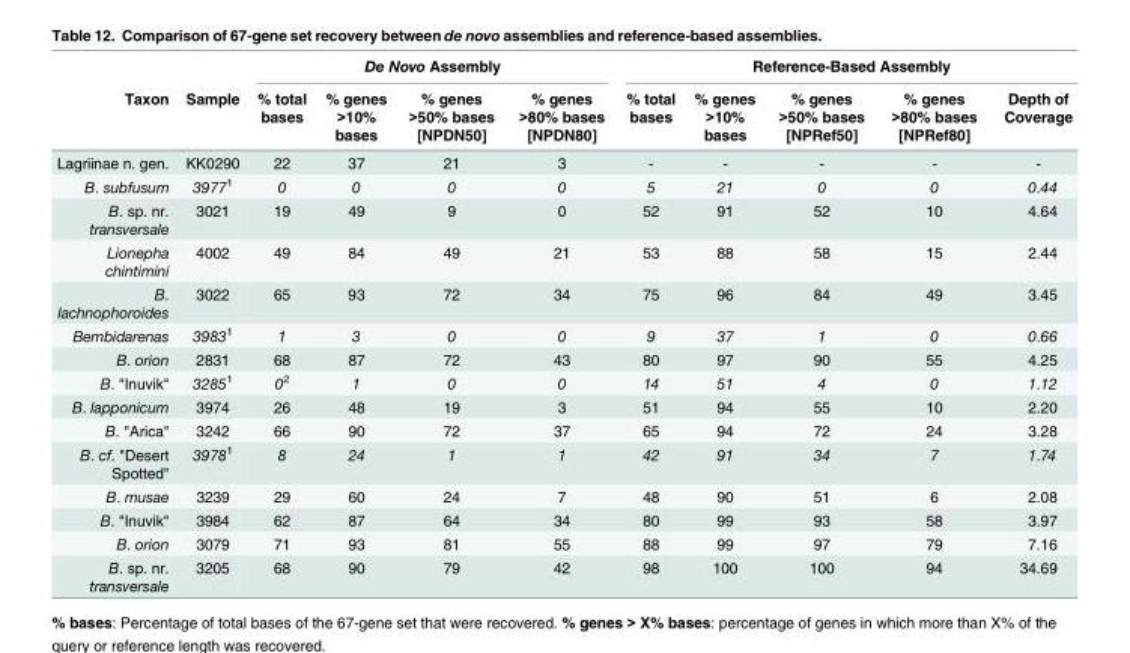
<table><thead><tr><td rowspan="2">Taxon</td><td rowspan="2">Sample</td><td colspan="4">De Novo Assembly</td><td colspan="5">Reference-Based Assembly</td></tr><tr><td>% total bases</td><td>% genes &gt;10% bases</td><td>% genes &gt;50% bases [NPDN50]</td><td>% genes &gt;80% bases [NPDN80]</td><td>% total bases</td><td>% genes &gt;10% bases</td><td>% genes &gt;50% bases [NPRef50]</td><td>% genes &gt;80% bases [NPRef80]</td><td>Depth of Coverage</td></tr></thead><tbody><tr><td>Lagriinae n. gen.</td><td>KK0290</td><td>22</td><td>37</td><td>21</td><td>3</td><td>-</td><td>-</td><td>-</td><td>-</td><td>-</td></tr><tr><td>B. subfusum</td><td>3977<sup>1</sup></td><td>0</td><td>0</td><td>0</td><td>0</td><td>5</td><td>21</td><td>0</td><td>0</td><td>0.44</td></tr><tr><td>B. sp. nr. transversale</td><td>3021</td><td>19</td><td>49</td><td>9</td><td>0</td><td>52</td><td>91</td><td>52</td><td>10</td><td>4.64</td></tr><tr><td>Lionepha chintimini</td><td>4002</td><td>49</td><td>84</td><td>49</td><td>21</td><td>53</td><td>88</td><td>58</td><td>15</td><td>2.44</td></tr><tr><td>B. lachnophoroides</td><td>3022</td><td>65</td><td>93</td><td>72</td><td>34</td><td>75</td><td>96</td><td>84</td><td>49</td><td>3.45</td></tr><tr><td>Bembidarenas</td><td>3983<sup>1</sup></td><td>1</td><td>3</td><td>0</td><td>0</td><td>9</td><td>37</td><td>1</td><td>0</td><td>0.66</td></tr><tr><td>B. orion</td><td>2831</td><td>68</td><td>87</td><td>72</td><td>43</td><td>80</td><td>97</td><td>90</td><td>55</td><td>4.25</td></tr><tr><td>B. &quot;Inuvik&quot;</td><td>3285<sup>1</sup></td><td>0<sup>2</sup></td><td>1</td><td>0</td><td>0</td><td>14</td><td>51</td><td>4</td><td>0</td><td>1.12</td></tr><tr><td>B. lapponicum</td><td>3974</td><td>26</td><td>48</td><td>19</td><td>3</td><td>51</td><td>94</td><td>55</td><td>10</td><td>2.20</td></tr><tr><td>B. &quot;Arica&quot;</td><td>3242</td><td>66</td><td>90</td><td>72</td><td>37</td><td>65</td><td>94</td><td>72</td><td>24</td><td>3.28</td></tr><tr><td>B. cf. &quot;Desert Spotted&quot;</td><td>3978<sup>1</sup></td><td>8</td><td>24</td><td>1</td><td>1</td><td>42</td><td>91</td><td>34</td><td>7</td><td>1.74</td></tr><tr><td>B. musae</td><td>3239</td><td>29</td><td>60</td><td>24</td><td>7</td><td>48</td><td>90</td><td>51</td><td>6</td><td>2.08</td></tr><tr><td>B. &quot;Inuvik&quot;</td><td>3984</td><td>62</td><td>87</td><td>64</td><td>34</td><td>80</td><td>99</td><td>93</td><td>58</td><td>3.97</td></tr><tr><td>B. orion</td><td>3079</td><td>71</td><td>93</td><td>81</td><td>55</td><td>88</td><td>99</td><td>97</td><td>79</td><td>7.16</td></tr><tr><td>B. sp. nr. transversale</td><td>3205</td><td>68</td><td>90</td><td>79</td><td>42</td><td>98</td><td>100</td><td>100</td><td>94</td><td>34.69</td></tr></tbody></table>